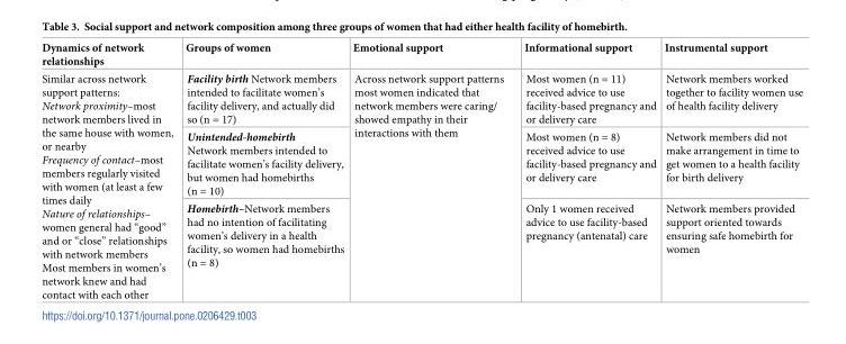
<table><thead><tr><td>Dynamics of network relationships</td><td>Groups of women</td><td>Emotional support</td><td>Informational support</td><td>Instrumental support</td></tr></thead><tbody><tr><td rowspan="3">Similar across network support patterns: Network proximity–most network members lived in the same house with women, or nearby Frequency of contact–most members regularly visited with women (at least a few times daily Nature of relationships– women general had “good” and or “close” relationships with network members Most members in women’s network knew and had contact with each other</td><td>Facility birth Network members intended to facilitate women’s facility delivery, and actually did so (n = 17)</td><td rowspan="3">Across network support patterns most women indicated that network members were caring/ showed empathy in their interactions with them</td><td>Most women (n = 11) received advice to use facility-based pregnancy and or delivery care</td><td>Network members worked together to facility women use of health facility delivery</td></tr><tr><td>Unintended-homebirth Network members intended to facilitate women’s facility delivery, but women had homebirths (n = 10)</td><td>Most women (n = 8) received advice to use facility-based pregnancy and or delivery care</td><td>Network members did not make arrangement in time to get women to a health facility for birth delivery</td></tr><tr><td>Homebirth–Network members had no intention of facilitating women’s delivery in a health facility, so women had homebirths (n = 8)</td><td>Only 1 women received advice to use facility-based pregnancy (antenatal) care</td><td>Network members provided support oriented towards ensuring safe homebirth for women</td></tr></tbody></table>